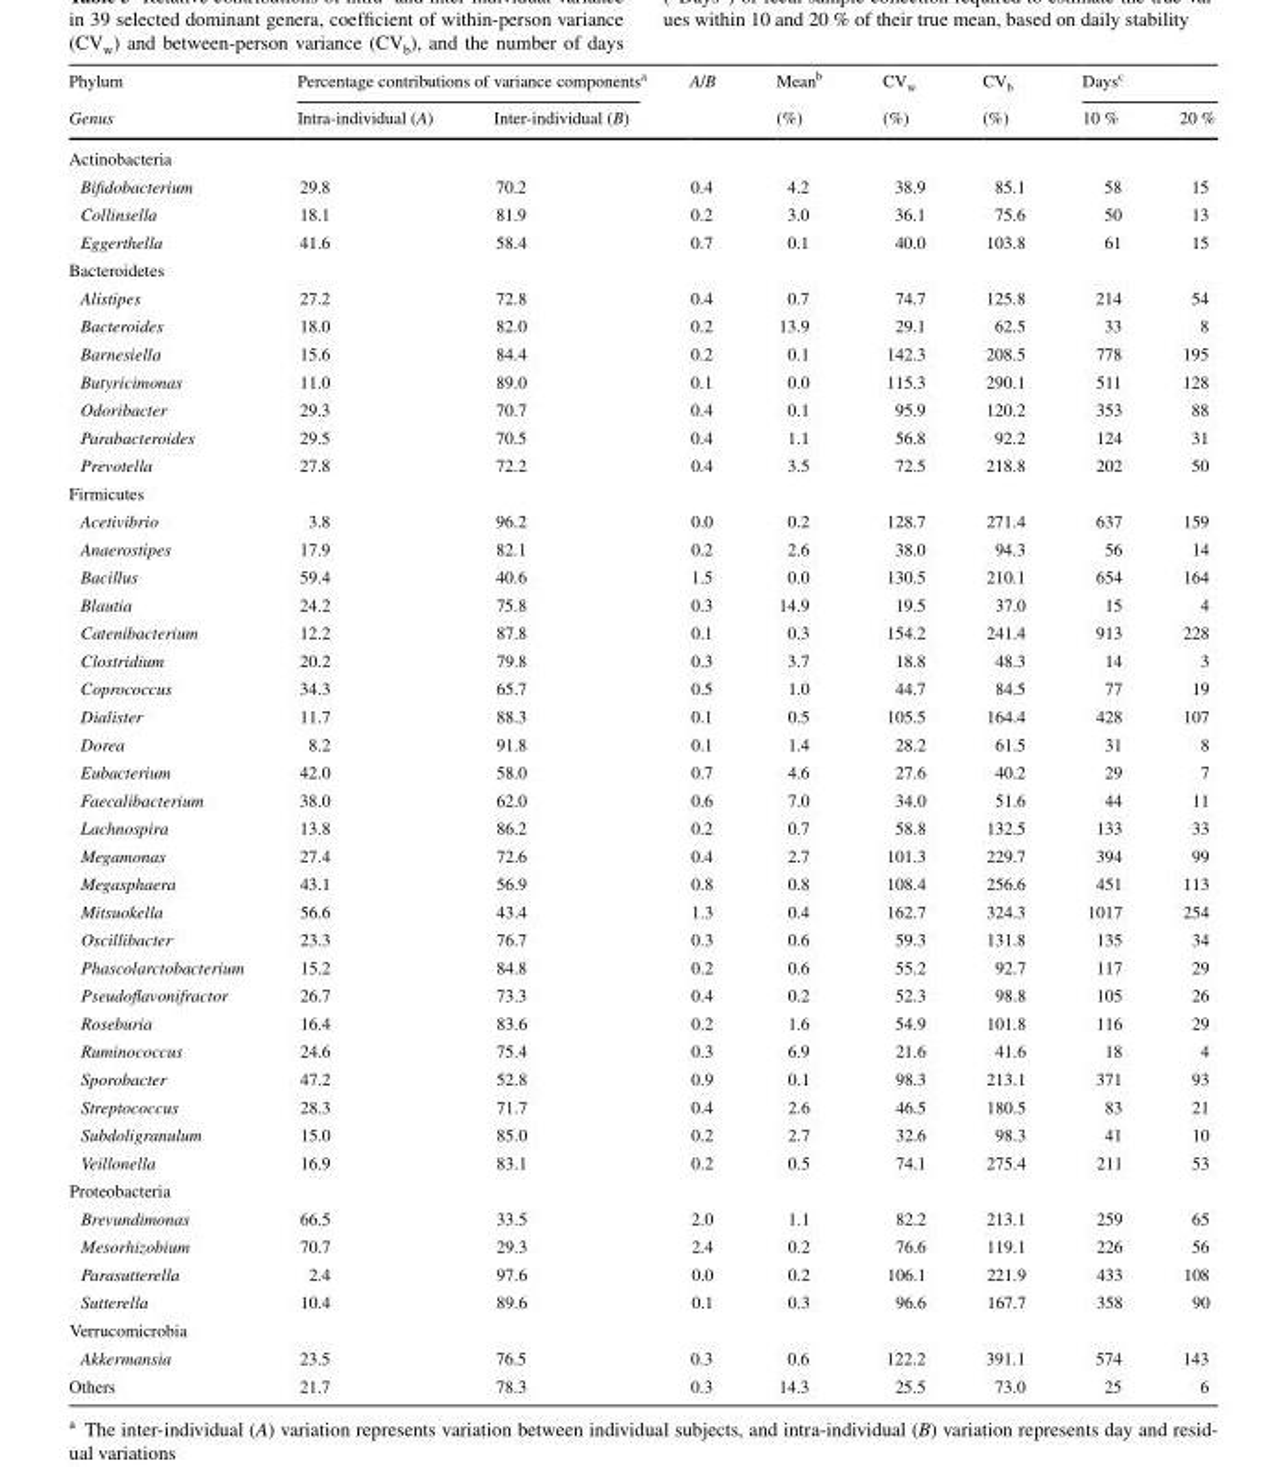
<table><thead><tr><td rowspan="2">Phylum Genus</td><td colspan="2">Percentage contributions of variance components<sup>a</sup></td><td rowspan="2">A/B</td><td rowspan="2">Mean<sup>b</sup> (%)</td><td rowspan="2">CV<sub>w</sub> (%)</td><td rowspan="2">CV<sub>b</sub> (%)</td><td colspan="2">Days<sup>c</sup></td></tr><tr><td>Intra-individual (A)</td><td>Inter-individual (B)</td><td>10 %</td><td>20 %</td></tr></thead><tbody><tr><td colspan="9">Actinobacteria</td></tr><tr><td>Bifidobacterium</td><td>29.8</td><td>70.2</td><td>0.4</td><td>4.2</td><td>38.9</td><td>85.1</td><td>58</td><td>15</td></tr><tr><td>Collinsella</td><td>18.1</td><td>81.9</td><td>0.2</td><td>3.0</td><td>36.1</td><td>75.6</td><td>50</td><td>13</td></tr><tr><td>Eggerthella</td><td>41.6</td><td>58.4</td><td>0.7</td><td>0.1</td><td>40.0</td><td>103.8</td><td>61</td><td>15</td></tr><tr><td colspan="9">Bacteroidetes</td></tr><tr><td>Alistipes</td><td>27.2</td><td>72.8</td><td>0.4</td><td>0.7</td><td>74.7</td><td>125.8</td><td>214</td><td>54</td></tr><tr><td>Bacteroides</td><td>18.0</td><td>82.0</td><td>0.2</td><td>13.9</td><td>29.1</td><td>62.5</td><td>33</td><td>8</td></tr><tr><td>Barnesiella</td><td>15.6</td><td>84.4</td><td>0.2</td><td>0.1</td><td>142.3</td><td>208.5</td><td>778</td><td>195</td></tr><tr><td>Butyricimonas</td><td>11.0</td><td>89.0</td><td>0.1</td><td>0.0</td><td>115.3</td><td>290.1</td><td>511</td><td>128</td></tr><tr><td>Odoribacter</td><td>29.3</td><td>70.7</td><td>0.4</td><td>0.1</td><td>95.9</td><td>120.2</td><td>353</td><td>88</td></tr><tr><td>Parabacteroides</td><td>29.5</td><td>70.5</td><td>0.4</td><td>1.1</td><td>56.8</td><td>92.2</td><td>124</td><td>31</td></tr><tr><td>Prevotella</td><td>27.8</td><td>72.2</td><td>0.4</td><td>3.5</td><td>72.5</td><td>218.8</td><td>202</td><td>50</td></tr><tr><td colspan="9">Firmicutes</td></tr><tr><td>Acetivibrio</td><td>3.8</td><td>96.2</td><td>0.0</td><td>0.2</td><td>128.7</td><td>271.4</td><td>637</td><td>159</td></tr><tr><td>Anaerostipes</td><td>17.9</td><td>82.1</td><td>0.2</td><td>2.6</td><td>38.0</td><td>94.3</td><td>56</td><td>14</td></tr><tr><td>Bacillus</td><td>59.4</td><td>40.6</td><td>1.5</td><td>0.0</td><td>130.5</td><td>210.1</td><td>654</td><td>164</td></tr><tr><td>Blautia</td><td>24.2</td><td>75.8</td><td>0.3</td><td>14.9</td><td>19.5</td><td>37.0</td><td>15</td><td>4</td></tr><tr><td>Catenibacterium</td><td>12.2</td><td>87.8</td><td>0.1</td><td>0.3</td><td>154.2</td><td>241.4</td><td>913</td><td>228</td></tr><tr><td>Clostridium</td><td>20.2</td><td>79.8</td><td>0.3</td><td>3.7</td><td>18.8</td><td>48.3</td><td>14</td><td>3</td></tr><tr><td>Coprococcus</td><td>34.3</td><td>65.7</td><td>0.5</td><td>1.0</td><td>44.7</td><td>84.5</td><td>77</td><td>19</td></tr><tr><td>Dialister</td><td>11.7</td><td>88.3</td><td>0.1</td><td>0.5</td><td>105.5</td><td>164.4</td><td>428</td><td>107</td></tr><tr><td>Dorea</td><td>8.2</td><td>91.8</td><td>0.1</td><td>1.4</td><td>28.2</td><td>61.5</td><td>31</td><td>8</td></tr><tr><td>Eubacterium</td><td>42.0</td><td>58.0</td><td>0.7</td><td>4.6</td><td>27.6</td><td>40.2</td><td>29</td><td>7</td></tr><tr><td>Faecalibacterium</td><td>38.0</td><td>62.0</td><td>0.6</td><td>7.0</td><td>34.0</td><td>51.6</td><td>44</td><td>11</td></tr><tr><td>Lachnospira</td><td>13.8</td><td>86.2</td><td>0.2</td><td>0.7</td><td>58.8</td><td>132.5</td><td>133</td><td>33</td></tr><tr><td>Megamonas</td><td>27.4</td><td>72.6</td><td>0.4</td><td>2.7</td><td>101.3</td><td>229.7</td><td>394</td><td>99</td></tr><tr><td>Megasphaera</td><td>43.1</td><td>56.9</td><td>0.8</td><td>0.8</td><td>108.4</td><td>256.6</td><td>451</td><td>113</td></tr><tr><td>Mitsuokella</td><td>56.6</td><td>43.4</td><td>1.3</td><td>0.4</td><td>162.7</td><td>324.3</td><td>1017</td><td>254</td></tr><tr><td>Oscillibacter</td><td>23.3</td><td>76.7</td><td>0.3</td><td>0.6</td><td>59.3</td><td>131.8</td><td>135</td><td>34</td></tr><tr><td>Phascolarctobacterium</td><td>15.2</td><td>84.8</td><td>0.2</td><td>0.6</td><td>55.2</td><td>92.7</td><td>117</td><td>29</td></tr><tr><td>Pseudoflavonifractor</td><td>26.7</td><td>73.3</td><td>0.4</td><td>0.2</td><td>52.3</td><td>98.8</td><td>105</td><td>26</td></tr><tr><td>Roseburia</td><td>16.4</td><td>83.6</td><td>0.2</td><td>1.6</td><td>54.9</td><td>101.8</td><td>116</td><td>29</td></tr><tr><td>Ruminococcus</td><td>24.6</td><td>75.4</td><td>0.3</td><td>6.9</td><td>21.6</td><td>41.6</td><td>18</td><td>4</td></tr><tr><td>Sporobacter</td><td>47.2</td><td>52.8</td><td>0.9</td><td>0.1</td><td>98.3</td><td>213.1</td><td>371</td><td>93</td></tr><tr><td>Streptococcus</td><td>28.3</td><td>71.7</td><td>0.4</td><td>2.6</td><td>46.5</td><td>180.5</td><td>83</td><td>21</td></tr><tr><td>Subdoligranulum</td><td>15.0</td><td>85.0</td><td>0.2</td><td>2.7</td><td>32.6</td><td>98.3</td><td>41</td><td>10</td></tr><tr><td>Veillonella</td><td>16.9</td><td>83.1</td><td>0.2</td><td>0.5</td><td>74.1</td><td>275.4</td><td>211</td><td>53</td></tr><tr><td colspan="9">Proteobacteria</td></tr><tr><td>Brevundimonas</td><td>66.5</td><td>33.5</td><td>2.0</td><td>1.1</td><td>82.2</td><td>213.1</td><td>259</td><td>65</td></tr><tr><td>Mesorhizobium</td><td>70.7</td><td>29.3</td><td>2.4</td><td>0.2</td><td>76.6</td><td>119.1</td><td>226</td><td>56</td></tr><tr><td>Parasutterella</td><td>2.4</td><td>97.6</td><td>0.0</td><td>0.2</td><td>106.1</td><td>221.9</td><td>433</td><td>108</td></tr><tr><td>Sutterella</td><td>10.4</td><td>89.6</td><td>0.1</td><td>0.3</td><td>96.6</td><td>167.7</td><td>358</td><td>90</td></tr><tr><td colspan="9">Verrucomicrobia</td></tr><tr><td>Akkermansia</td><td>23.5</td><td>76.5</td><td>0.3</td><td>0.6</td><td>122.2</td><td>391.1</td><td>574</td><td>143</td></tr><tr><td>Others</td><td>21.7</td><td>78.3</td><td>0.3</td><td>14.3</td><td>25.5</td><td>73.0</td><td>25</td><td>6</td></tr></tbody></table>